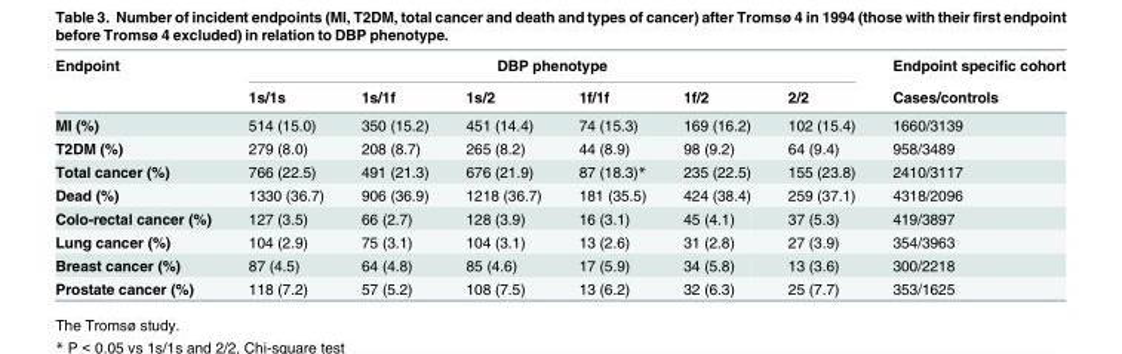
<table><thead><tr><td rowspan="2">Endpoint</td><td colspan="6">DBP phenotype</td><td rowspan="2">Endpoint specific cohort Cases/controls</td></tr><tr><td>1s/1s</td><td>1s/1f</td><td>1s/2</td><td>1f/1f</td><td>1f/2</td><td>2/2</td></tr></thead><tbody><tr><td>MI (%)</td><td>514 (15.0)</td><td>350 (15.2)</td><td>451 (14.4)</td><td>74 (15.3)</td><td>169 (16.2)</td><td>102 (15.4)</td><td>1660/3139</td></tr><tr><td>T2DM (%)</td><td>279 (8.0)</td><td>208 (8.7)</td><td>265 (8.2)</td><td>44 (8.9)</td><td>98 (9.2)</td><td>64 (9.4)</td><td>958/3489</td></tr><tr><td>Total cancer (%)</td><td>766 (22.5)</td><td>491 (21.3)</td><td>676 (21.9)</td><td>87 (18.3)*</td><td>235 (22.5)</td><td>155 (23.8)</td><td>2410/3117</td></tr><tr><td>Dead (%)</td><td>1330 (36.7)</td><td>906 (36.9)</td><td>1218 (36.7)</td><td>181 (35.5)</td><td>424 (38.4)</td><td>259 (37.1)</td><td>4318/2096</td></tr><tr><td>Colo-rectal cancer (%)</td><td>127 (3.5)</td><td>66 (2.7)</td><td>128 (3.9)</td><td>16 (3.1)</td><td>45 (4.1)</td><td>37 (5.3)</td><td>419/3897</td></tr><tr><td>Lung cancer (%)</td><td>104 (2.9)</td><td>75 (3.1)</td><td>104 (3.1)</td><td>13 (2.6)</td><td>31 (2.8)</td><td>27 (3.9)</td><td>354/3963</td></tr><tr><td>Breast cancer (%)</td><td>87 (4.5)</td><td>64 (4.8)</td><td>85 (4.6)</td><td>17 (5.9)</td><td>34 (5.8)</td><td>13 (3.6)</td><td>300/2218</td></tr><tr><td>Prostate cancer (%)</td><td>118 (7.2)</td><td>57 (5.2)</td><td>108 (7.5)</td><td>13 (6.2)</td><td>32 (6.3)</td><td>25 (7.7)</td><td>353/1625</td></tr></tbody></table>